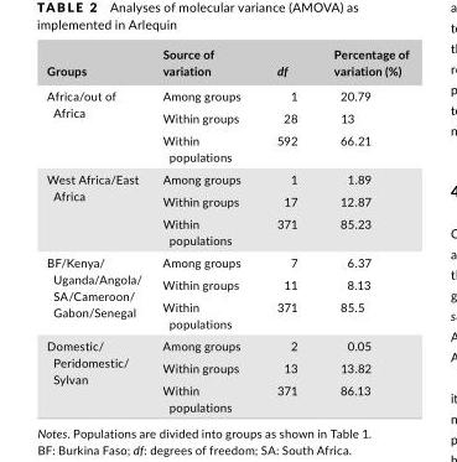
<table><thead><tr><td>Groups</td><td>Source of variation</td><td>df</td><td>Percentage of variation (%)</td></tr></thead><tbody><tr><td rowspan="3">Africa/out of Africa</td><td>Among groups</td><td>1</td><td>20.79</td></tr><tr><td>Within groups</td><td>28</td><td>13</td></tr><tr><td>Within populations</td><td>592</td><td>66.21</td></tr><tr><td rowspan="3">West Africa/East Africa</td><td>Among groups</td><td>1</td><td>1.89</td></tr><tr><td>Within groups</td><td>17</td><td>12.87</td></tr><tr><td>Within populations</td><td>371</td><td>85.23</td></tr><tr><td rowspan="3">BF/Kenya/ Uganda/Angola/ SA/Cameroon/ Gabon/Senegal</td><td>Among groups</td><td>7</td><td>6.37</td></tr><tr><td>Within groups</td><td>11</td><td>8.13</td></tr><tr><td>Within populations</td><td>371</td><td>85.5</td></tr><tr><td rowspan="3">Domestic/ Peridomestic/ Sylvan</td><td>Among groups</td><td>2</td><td>0.05</td></tr><tr><td>Within groups</td><td>13</td><td>13.82</td></tr><tr><td>Within populations</td><td>371</td><td>86.13</td></tr></tbody></table>